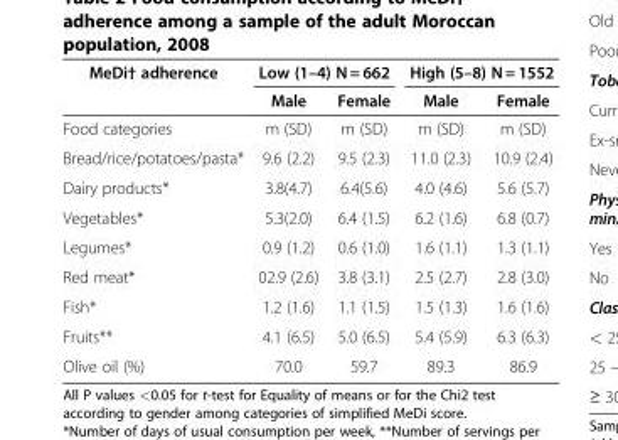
<table><thead><tr><td rowspan="2">MeDi† adherence</td><td colspan="2">Low (1–4) N = 662</td><td colspan="2">High (5–8) N = 1552</td></tr><tr><td>Male</td><td>Female</td><td>Male</td><td>Female</td></tr></thead><tbody><tr><td>Food categories</td><td>m (SD)</td><td>m (SD)</td><td>m (SD)</td><td>m (SD)</td></tr><tr><td>Bread/rice/potatoes/pasta*</td><td>9.6 (2.2)</td><td>9.5 (2.3)</td><td>11.0 (2.3)</td><td>10.9 (2.4)</td></tr><tr><td>Dairy products*</td><td>3.8(4.7)</td><td>6.4(5.6)</td><td>4.0 (4.6)</td><td>5.6 (5.7)</td></tr><tr><td>Vegetables*</td><td>5.3(2.0)</td><td>6.4 (1.5)</td><td>6.2 (1.6)</td><td>6.8 (0.7)</td></tr><tr><td>Legumes*</td><td>0.9 (1.2)</td><td>0.6 (1.0)</td><td>1.6 (1.1)</td><td>1.3 (1.1)</td></tr><tr><td>Red meat*</td><td>02.9 (2.6)</td><td>3.8 (3.1)</td><td>2.5 (2.7)</td><td>2.8 (3.0)</td></tr><tr><td>Fish*</td><td>1.2 (1.6)</td><td>1.1 (1.5)</td><td>1.5 (1.3)</td><td>1.6 (1.6)</td></tr><tr><td>Fruits**</td><td>4.1 (6.5)</td><td>5.0 (6.5)</td><td>5.4 (5.9)</td><td>6.3 (6.3)</td></tr><tr><td>Olive oil (%)</td><td>70.0</td><td>59.7</td><td>89.3</td><td>86.9</td></tr></tbody></table>